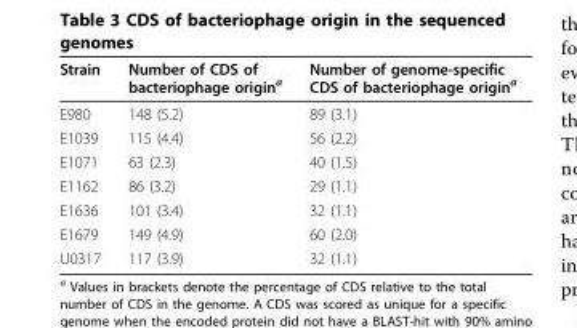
<table><thead><tr><td>Strain</td><td>Number of CDS of bacteriophage origin<sup>a</sup></td><td>Number of genome-specific CDS of bacteriophage origin<sup>a</sup></td></tr></thead><tbody><tr><td>E980</td><td>148 (5.2)</td><td>89 (3.1)</td></tr><tr><td>E1039</td><td>115 (4.4)</td><td>56 (2.2)</td></tr><tr><td>E1071</td><td>63 (2.3)</td><td>40 (1.5)</td></tr><tr><td>E1162</td><td>86 (3.2)</td><td>29 (1.1)</td></tr><tr><td>E1636</td><td>101 (3.4)</td><td>32 (1.1)</td></tr><tr><td>E1679</td><td>149 (4.9)</td><td>60 (2.0)</td></tr><tr><td>U0317</td><td>117 (3.9)</td><td>32 (1.1)</td></tr></tbody></table>